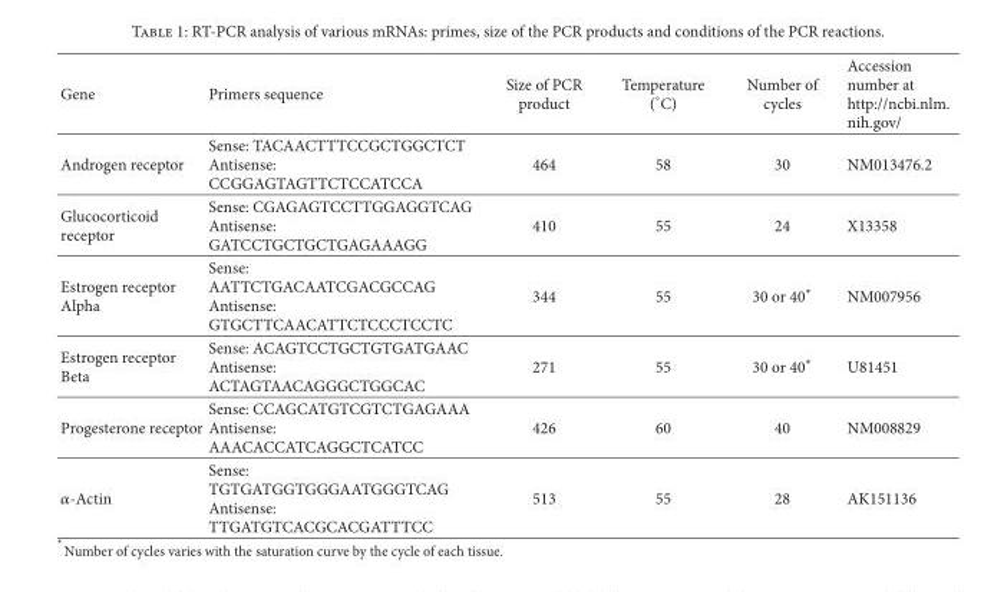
<table><thead><tr><td>Gene</td><td>Primers sequence</td><td>Size of PCR product</td><td>Temperature (∘C)</td><td>Number of cycles</td><td>Accession number at http://ncbi.nlm. nih.gov/</td></tr></thead><tbody><tr><td>Androgen receptor</td><td>Sense: TACAACTTTCCGCTGGCTCT Antisense: CCGGAGTAGTTCTCCATCCA</td><td>464</td><td>58</td><td>30</td><td>NM013476.2</td></tr><tr><td>Glucocorticoid receptor</td><td>Sense: CGAGAGTCCTTGGAGGTCAG Antisense: GATCCTGCTGCTGAGAAAGG</td><td>410</td><td>55</td><td>24</td><td>X13358</td></tr><tr><td>Estrogen receptor Alpha</td><td>Sense: AATTCTGACAATCGACGCCAG Antisense: GTGCTTCAACATTCTCCCTCCTC</td><td>344</td><td>55</td><td>30 or 40∗</td><td>NM007956</td></tr><tr><td>Estrogen receptor Beta</td><td>Sense: ACAGTCCTGCTGTGATGAAC Antisense: ACTAGTAACAGGGCTGGCAC</td><td>271</td><td>55</td><td>30 or 40∗</td><td>U81451</td></tr><tr><td>Progesterone receptor</td><td>Sense: CCAGCATGTCGTCTGAGAAA Antisense: AAACACCATCAGGCTCATCC</td><td>426</td><td>60</td><td>40</td><td>NM008829</td></tr><tr><td>𝛼𝛼-Actin</td><td>Sense: TGTGATGGTGGGAATGGGTCAG Antisense: TTGATGTCACGCACGATTTCC</td><td>513</td><td>55</td><td>28</td><td>AK151136</td></tr></tbody></table>